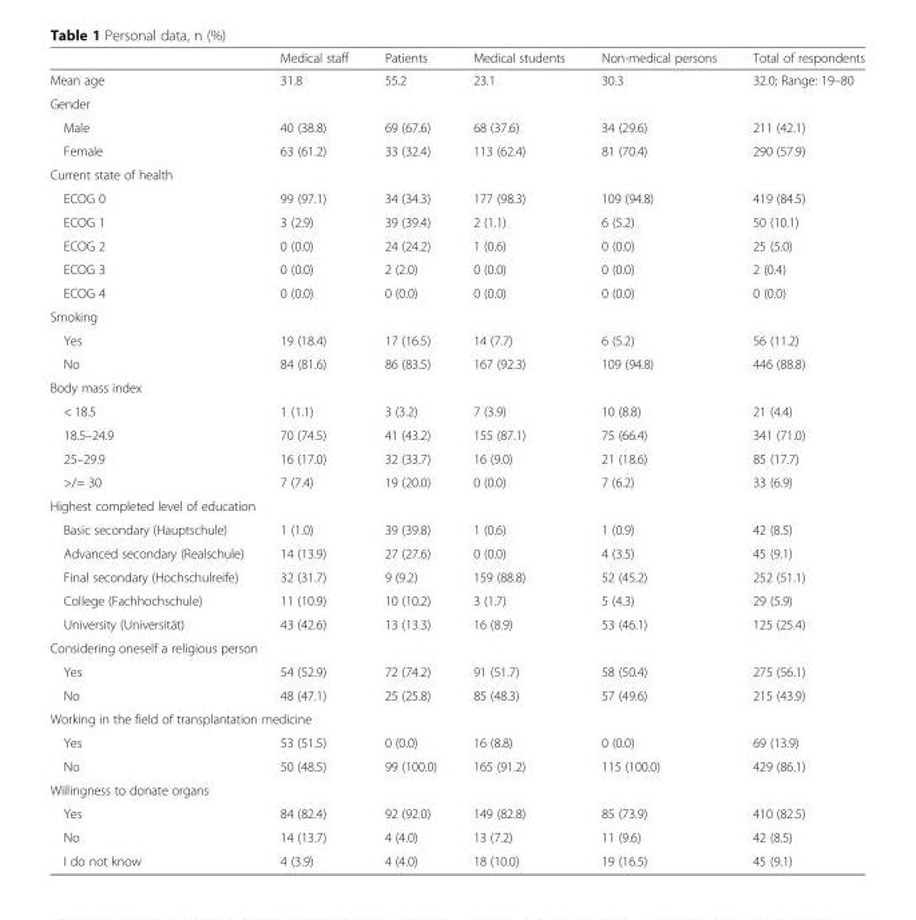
<table><thead><tr><td></td><td>Medical staff</td><td>Patients</td><td>Medical students</td><td>Non-medical persons</td><td>Total of respondents</td></tr></thead><tbody><tr><td>Mean age</td><td>31.8</td><td>55.2</td><td>23.1</td><td>30.3</td><td>32.0; Range: 19–80</td></tr><tr><td colspan="6">Gender</td></tr><tr><td>Male</td><td>40 (38.8)</td><td>69 (67.6)</td><td>68 (37.6)</td><td>34 (29.6)</td><td>211 (42.1)</td></tr><tr><td>Female</td><td>63 (61.2)</td><td>33 (32.4)</td><td>113 (62.4)</td><td>81 (70.4)</td><td>290 (57.9)</td></tr><tr><td colspan="6">Current state of health</td></tr><tr><td>ECOG 0</td><td>99 (97.1)</td><td>34 (34.3)</td><td>177 (98.3)</td><td>109 (94.8)</td><td>419 (84.5)</td></tr><tr><td>ECOG 1</td><td>3 (2.9)</td><td>39 (39.4)</td><td>2 (1.1)</td><td>6 (5.2)</td><td>50 (10.1)</td></tr><tr><td>ECOG 2</td><td>0 (0.0)</td><td>24 (24.2)</td><td>1 (0.6)</td><td>0 (0.0)</td><td>25 (5.0)</td></tr><tr><td>ECOG 3</td><td>0 (0.0)</td><td>2 (2.0)</td><td>0 (0.0)</td><td>0 (0.0)</td><td>2 (0.4)</td></tr><tr><td>ECOG 4</td><td>0 (0.0)</td><td>0 (0.0)</td><td>0 (0.0)</td><td>0 (0.0)</td><td>0 (0.0)</td></tr><tr><td colspan="6">Smoking</td></tr><tr><td>Yes</td><td>19 (18.4)</td><td>17 (16.5)</td><td>14 (7.7)</td><td>6 (5.2)</td><td>56 (11.2)</td></tr><tr><td>No</td><td>84 (81.6)</td><td>86 (83.5)</td><td>167 (92.3)</td><td>109 (94.8)</td><td>446 (88.8)</td></tr><tr><td colspan="6">Body mass index</td></tr><tr><td>&lt; 18.5</td><td>1 (1.1)</td><td>3 (3.2)</td><td>7 (3.9)</td><td>10 (8.8)</td><td>21 (4.4)</td></tr><tr><td>18.5–24.9</td><td>70 (74.5)</td><td>41 (43.2)</td><td>155 (87.1)</td><td>75 (66.4)</td><td>341 (71.0)</td></tr><tr><td>25–29.9</td><td>16 (17.0)</td><td>32 (33.7)</td><td>16 (9.0)</td><td>21 (18.6)</td><td>85 (17.7)</td></tr><tr><td>&gt;/= 30</td><td>7 (7.4)</td><td>19 (20.0)</td><td>0 (0.0)</td><td>7 (6.2)</td><td>33 (6.9)</td></tr><tr><td colspan="6">Highest completed level of education</td></tr><tr><td>Basic secondary (Hauptschule)</td><td>1 (1.0)</td><td>39 (39.8)</td><td>1 (0.6)</td><td>1 (0.9)</td><td>42 (8.5)</td></tr><tr><td>Advanced secondary (Realschule)</td><td>14 (13.9)</td><td>27 (27.6)</td><td>0 (0.0)</td><td>4 (3.5)</td><td>45 (9.1)</td></tr><tr><td>Final secondary (Hochschulreife)</td><td>32 (31.7)</td><td>9 (9.2)</td><td>159 (88.8)</td><td>52 (45.2)</td><td>252 (51.1)</td></tr><tr><td>College (Fachhochschule)</td><td>11 (10.9)</td><td>10 (10.2)</td><td>3 (1.7)</td><td>5 (4.3)</td><td>29 (5.9)</td></tr><tr><td>University (Universität)</td><td>43 (42.6)</td><td>13 (13.3)</td><td>16 (8.9)</td><td>53 (46.1)</td><td>125 (25.4)</td></tr><tr><td colspan="6">Considering oneself a religious person</td></tr><tr><td>Yes</td><td>54 (52.9)</td><td>72 (74.2)</td><td>91 (51.7)</td><td>58 (50.4)</td><td>275 (56.1)</td></tr><tr><td>No</td><td>48 (47.1)</td><td>25 (25.8)</td><td>85 (48.3)</td><td>57 (49.6)</td><td>215 (43.9)</td></tr><tr><td colspan="6">Working in the field of transplantation medicine</td></tr><tr><td>Yes</td><td>53 (51.5)</td><td>0 (0.0)</td><td>16 (8.8)</td><td>0 (0.0)</td><td>69 (13.9)</td></tr><tr><td>No</td><td>50 (48.5)</td><td>99 (100.0)</td><td>165 (91.2)</td><td>115 (100.0)</td><td>429 (86.1)</td></tr><tr><td colspan="6">Willingness to donate organs</td></tr><tr><td>Yes</td><td>84 (82.4)</td><td>92 (92.0)</td><td>149 (82.8)</td><td>85 (73.9)</td><td>410 (82.5)</td></tr><tr><td>No</td><td>14 (13.7)</td><td>4 (4.0)</td><td>13 (7.2)</td><td>11 (9.6)</td><td>42 (8.5)</td></tr><tr><td>I do not know</td><td>4 (3.9)</td><td>4 (4.0)</td><td>18 (10.0)</td><td>19 (16.5)</td><td>45 (9.1)</td></tr></tbody></table>